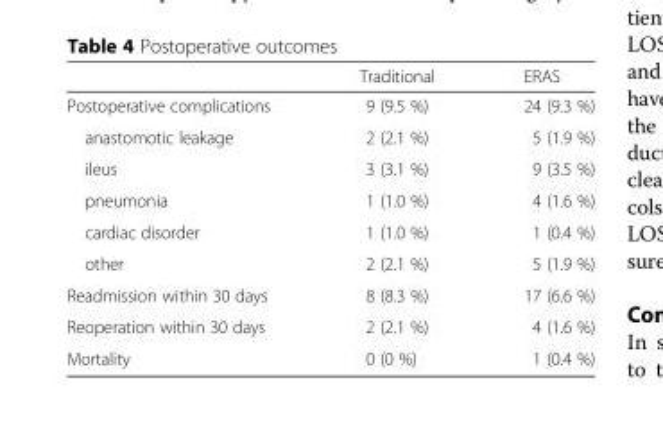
<table><thead><tr><td></td><td>Traditional</td><td>ERAS</td></tr></thead><tbody><tr><td>Postoperative complications</td><td>9 (9.5 %)</td><td>24 (9.3 %)</td></tr><tr><td>anastomotic leakage</td><td>2 (2.1 %)</td><td>5 (1.9 %)</td></tr><tr><td>ileus</td><td>3 (3.1 %)</td><td>9 (3.5 %)</td></tr><tr><td>pneumonia</td><td>1 (1.0 %)</td><td>4 (1.6 %)</td></tr><tr><td>cardiac disorder</td><td>1 (1.0 %)</td><td>1 (0.4 %)</td></tr><tr><td>other</td><td>2 (2.1 %)</td><td>5 (1.9 %)</td></tr><tr><td>Readmission within 30 days</td><td>8 (8.3 %)</td><td>17 (6.6 %)</td></tr><tr><td>Reoperation within 30 days</td><td>2 (2.1 %)</td><td>4 (1.6 %)</td></tr><tr><td>Mortality</td><td>0 (0 %)</td><td>1 (0.4 %)</td></tr></tbody></table>